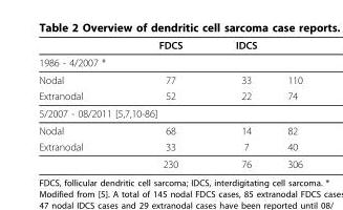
<table><thead><tr><td></td><td>FDCS</td><td>IDCS</td><td></td></tr></thead><tbody><tr><td colspan="4">1986 - 4/2007 *</td></tr><tr><td>Nodal</td><td>77</td><td>33</td><td>110</td></tr><tr><td>Extranodal</td><td>52</td><td>22</td><td>74</td></tr><tr><td colspan="4">5/2007 - 08/2011 [5,7,10-86]</td></tr><tr><td>Nodal</td><td>68</td><td>14</td><td>82</td></tr><tr><td rowspan="2">Extranodal</td><td>33</td><td>7</td><td>40</td></tr><tr><td>230</td><td>76</td><td>306</td></tr></tbody></table>